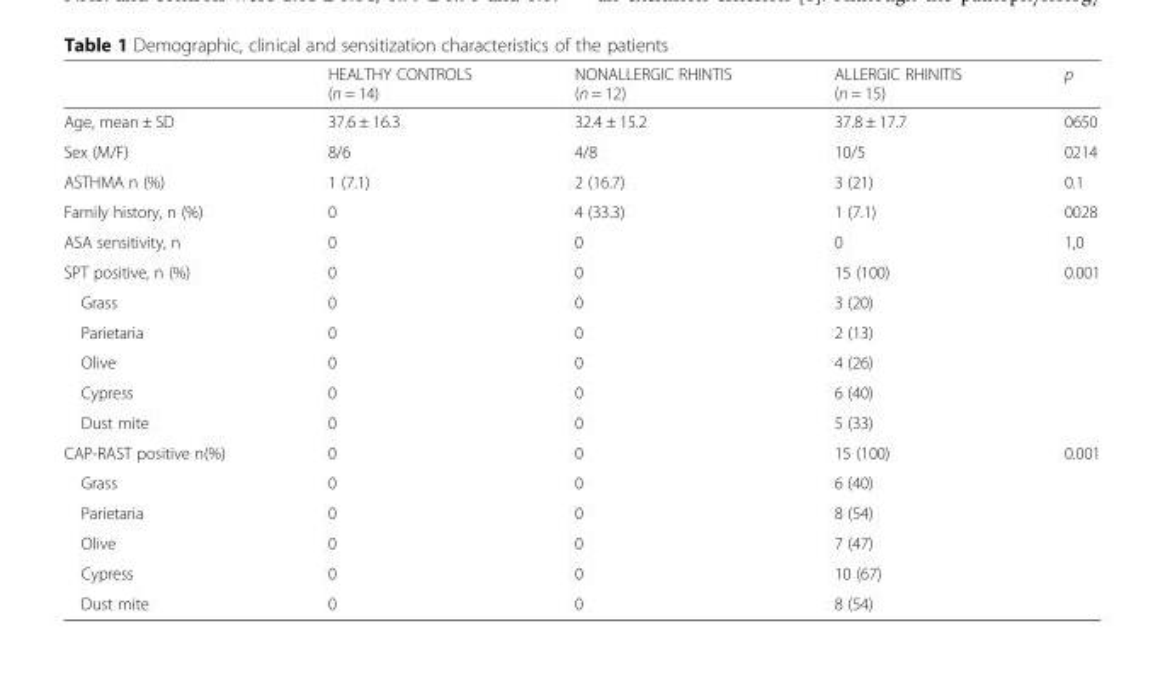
<table><thead><tr><td></td><td>HEALTHY CONTROLS (n = 14)</td><td>NONALLERGIC RHINTIS (n = 12)</td><td>ALLERGIC RHINITIS (n = 15)</td><td>p</td></tr></thead><tbody><tr><td>Age, mean ± SD</td><td>37.6 ± 16.3</td><td>32.4 ± 15.2</td><td>37.8 ± 17.7</td><td>0650</td></tr><tr><td>Sex (M/F)</td><td>8/6</td><td>4/8</td><td>10/5</td><td>0214</td></tr><tr><td>ASTHMA n (%)</td><td>1 (7.1)</td><td>2 (16.7)</td><td>3 (21)</td><td>0.1</td></tr><tr><td>Family history, n (%)</td><td>0</td><td>4 (33.3)</td><td>1 (7.1)</td><td>0028</td></tr><tr><td>ASA sensitivity, n</td><td>0</td><td>0</td><td>0</td><td>1,0</td></tr><tr><td>SPT positive, n (%)</td><td>0</td><td>0</td><td>15 (100)</td><td rowspan="6">0.001</td></tr><tr><td>Grass</td><td>0</td><td>0</td><td>3 (20)</td></tr><tr><td>Parietaria</td><td>0</td><td>0</td><td>2 (13)</td></tr><tr><td>Olive</td><td>0</td><td>0</td><td>4 (26)</td></tr><tr><td>Cypress</td><td>0</td><td>0</td><td>6 (40)</td></tr><tr><td>Dust mite</td><td>0</td><td>0</td><td>5 (33)</td></tr><tr><td>CAP-RAST positive n(%)</td><td>0</td><td>0</td><td>15 (100)</td><td rowspan="6">0.001</td></tr><tr><td>Grass</td><td>0</td><td>0</td><td>6 (40)</td></tr><tr><td>Parietaria</td><td>0</td><td>0</td><td>8 (54)</td></tr><tr><td>Olive</td><td>0</td><td>0</td><td>7 (47)</td></tr><tr><td>Cypress</td><td>0</td><td>0</td><td>10 (67)</td></tr><tr><td>Dust mite</td><td>0</td><td>0</td><td>8 (54)</td></tr></tbody></table>